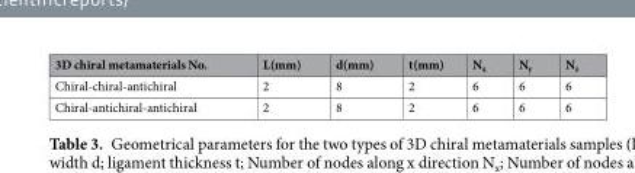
<table><thead><tr><td>3D chiral metamaterials No.</td><td>L(mm)</td><td>d(mm)</td><td>t(mm)</td><td>N<sub>x</sub></td><td>N<sub>y</sub></td><td>N<sub>z</sub></td></tr></thead><tbody><tr><td>Chiral-chiral-antichiral</td><td>2</td><td>8</td><td>2</td><td>6</td><td>6</td><td>6</td></tr><tr><td>Chiral-antichiral-antichiral</td><td>2</td><td>8</td><td>2</td><td>6</td><td>6</td><td>6</td></tr></tbody></table>